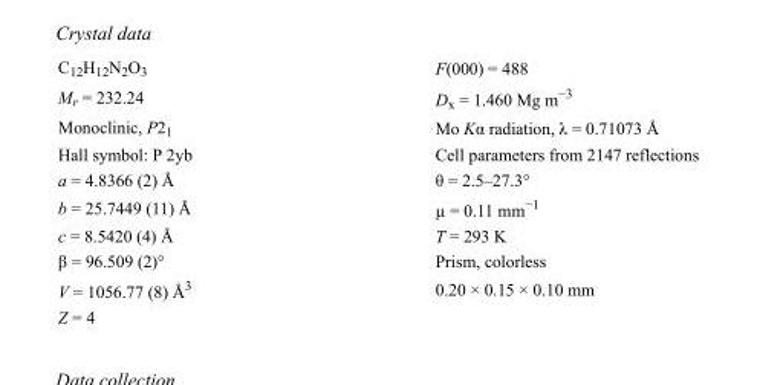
<table><tbody><tr><td>C<sub>12</sub>H<sub>12</sub>N<sub>2</sub>O<sub>3</sub></td><td>F(000) = 488</td></tr><tr><td>M<sub>r</sub> = 232.24</td><td>D<sub>x</sub> = 1.460 Mg m<sup>−3</sup></td></tr><tr><td>Monoclinic, P2<sub>1</sub></td><td>Mo Kα radiation, λ = 0.71073 Å</td></tr><tr><td>Hall symbol: P 2yb</td><td>Cell parameters from 2147 reflections</td></tr><tr><td>a = 4.8366 (2) Å</td><td>θ = 2.5–27.3°</td></tr><tr><td>b = 25.7449 (11) Å</td><td>µ = 0.11 mm<sup>−1</sup></td></tr><tr><td>c = 8.5420 (4) Å</td><td>T = 293 K</td></tr><tr><td>β = 96.509 (2)°</td><td>Prism, colorless</td></tr><tr><td>V = 1056.77 (8) Å<sup>3</sup></td><td>0.20 × 0.15 × 0.10 mm</td></tr><tr><td>Z = 4</td><td></td></tr></tbody></table>